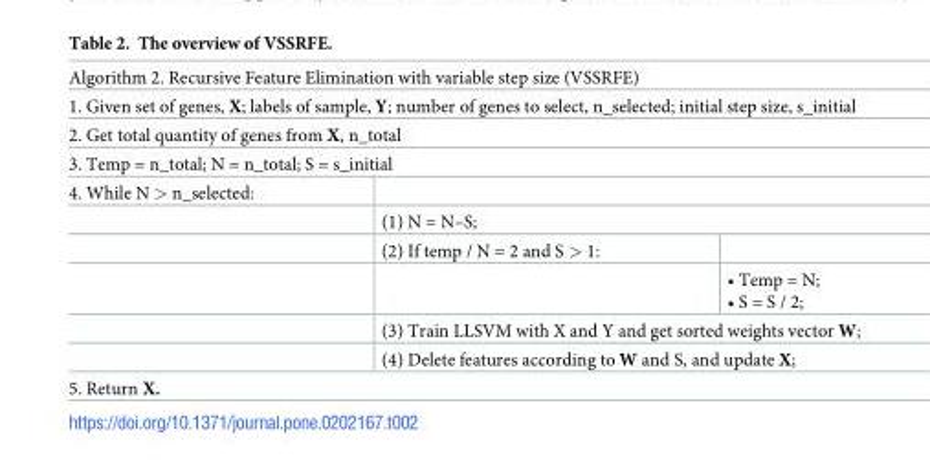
<table><tbody><tr><td colspan="3">Algorithm 2. Recursive Feature Elimination with variable step size (VSSRFE)</td></tr><tr><td colspan="3">1. Given set of genes, X; labels of sample, Y; number of genes to select, n_selected; initial step size, s_initial</td></tr><tr><td colspan="3">2. Get total quantity of genes from X, n_total</td></tr><tr><td colspan="3">3. Temp = n_total; N = n_total; S = s_initial</td></tr><tr><td colspan="3">4. While N &gt; n_selected:</td></tr><tr><td></td><td colspan="2">(1) N = N–S;</td></tr><tr><td></td><td>(2) If temp / N = 2 and S &gt; 1:</td><td></td></tr><tr><td></td><td></td><td>• Temp = N; • S = S / 2;</td></tr><tr><td></td><td colspan="2">(3) Train LLSVM with X and Y and get sorted weights vector W;</td></tr><tr><td></td><td colspan="2">(4) Delete features according to W and S, and update X;</td></tr><tr><td colspan="3">5. Return X.</td></tr></tbody></table>